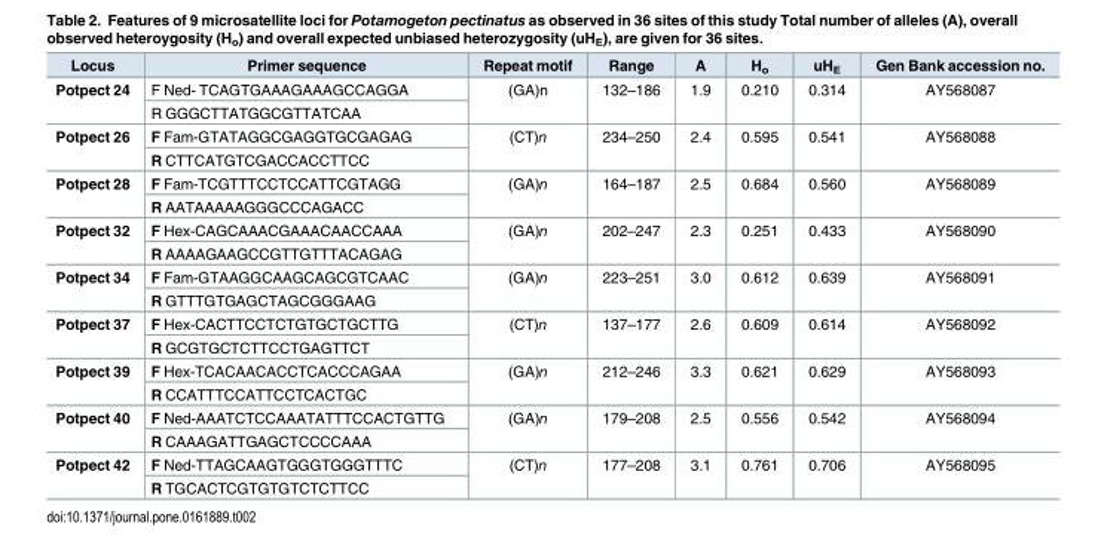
<table><thead><tr><td>Locus</td><td>Primer sequence</td><td>Repeat motif</td><td>Range</td><td>A</td><td>H<sub>o</sub></td><td>uH<sub>E</sub></td><td>Gen Bank accession no.</td></tr></thead><tbody><tr><td rowspan="2">Potpect 24</td><td>F Ned- TCAGTGAAAGAAAGCCAGGA</td><td rowspan="2">(GA)n</td><td rowspan="2">132–186</td><td rowspan="2">1.9</td><td rowspan="2">0.210</td><td rowspan="2">0.314</td><td rowspan="2">AY568087</td></tr><tr><td>R GGGCTTATGGCGTTATCAA</td></tr><tr><td rowspan="2">Potpect 26</td><td>F Fam-GTATAGGCGAGGTGCGAGAG</td><td rowspan="2">(CT)n</td><td rowspan="2">234–250</td><td rowspan="2">2.4</td><td rowspan="2">0.595</td><td rowspan="2">0.541</td><td rowspan="2">AY568088</td></tr><tr><td>R CTTCATGTCGACCACCTTCC</td></tr><tr><td rowspan="2">Potpect 28</td><td>F Fam-TCGTTTCCTCCATTCGTAGG</td><td rowspan="2">(GA)n</td><td rowspan="2">164–187</td><td rowspan="2">2.5</td><td rowspan="2">0.684</td><td rowspan="2">0.560</td><td rowspan="2">AY568089</td></tr><tr><td>R AATAAAAAGGGCCCAGACC</td></tr><tr><td rowspan="2">Potpect 32</td><td>F Hex-CAGCAAACGAAACAACCAAA</td><td rowspan="2">(GA)n</td><td rowspan="2">202–247</td><td rowspan="2">2.3</td><td rowspan="2">0.251</td><td rowspan="2">0.433</td><td rowspan="2">AY568090</td></tr><tr><td>R AAAAGAAGCCGTTGTTTACAGAG</td></tr><tr><td rowspan="2">Potpect 34</td><td>F Fam-GTAAGGCAAGCAGCGTCAAC</td><td rowspan="2">(GA)n</td><td rowspan="2">223–251</td><td rowspan="2">3.0</td><td rowspan="2">0.612</td><td rowspan="2">0.639</td><td rowspan="2">AY568091</td></tr><tr><td>R GTTTGTGAGCTAGCGGGAAG</td></tr><tr><td rowspan="2">Potpect 37</td><td>F Hex-CACTTCCTCTGTGCTGCTTG</td><td rowspan="2">(CT)n</td><td rowspan="2">137–177</td><td rowspan="2">2.6</td><td rowspan="2">0.609</td><td rowspan="2">0.614</td><td rowspan="2">AY568092</td></tr><tr><td>R GCGTGCTCTTCCTGAGTTCT</td></tr><tr><td rowspan="2">Potpect 39</td><td>F Hex-TCACAACACCTCACCCAGAA</td><td rowspan="2">(GA)n</td><td rowspan="2">212–246</td><td rowspan="2">3.3</td><td rowspan="2">0.621</td><td rowspan="2">0.629</td><td rowspan="2">AY568093</td></tr><tr><td>R CCATTTCCATTCCTCACTGC</td></tr><tr><td rowspan="2">Potpect 40</td><td>F Ned-AAATCTCCAAATATTTCCACTGTTG</td><td rowspan="2">(GA)n</td><td rowspan="2">179–208</td><td rowspan="2">2.5</td><td rowspan="2">0.556</td><td rowspan="2">0.542</td><td rowspan="2">AY568094</td></tr><tr><td>R CAAAGATTGAGCTCCCCAAA</td></tr><tr><td rowspan="2">Potpect 42</td><td>F Ned-TTAGCAAGTGGGTGGGTTTC</td><td rowspan="2">(CT)n</td><td rowspan="2">177–208</td><td rowspan="2">3.1</td><td rowspan="2">0.761</td><td rowspan="2">0.706</td><td rowspan="2">AY568095</td></tr><tr><td>R TGCACTCGTGTGTCTCTTCC</td></tr></tbody></table>